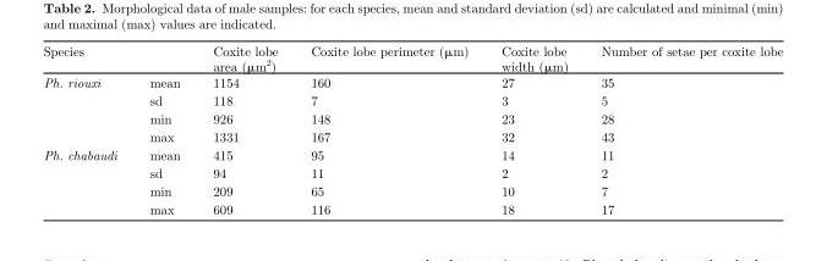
<table><thead><tr><td>Species</td><td></td><td>Coxite lobe area (μm<sup>2</sup>)</td><td>Coxite lobe perimeter (μm)</td><td>Coxite lobe width (μm)</td><td>Number of setae per coxite lobe</td></tr></thead><tbody><tr><td rowspan="4">Ph. riouxi</td><td>mean</td><td>1154</td><td>160</td><td>27</td><td>35</td></tr><tr><td>sd</td><td>118</td><td>7</td><td>3</td><td>5</td></tr><tr><td>min</td><td>926</td><td>148</td><td>23</td><td>28</td></tr><tr><td>max</td><td>1331</td><td>167</td><td>32</td><td>43</td></tr><tr><td rowspan="4">Ph. chabaudi</td><td>mean</td><td>415</td><td>95</td><td>14</td><td>11</td></tr><tr><td>sd</td><td>94</td><td>11</td><td>2</td><td>2</td></tr><tr><td>min</td><td>209</td><td>65</td><td>10</td><td>7</td></tr><tr><td>max</td><td>609</td><td>116</td><td>18</td><td>17</td></tr></tbody></table>